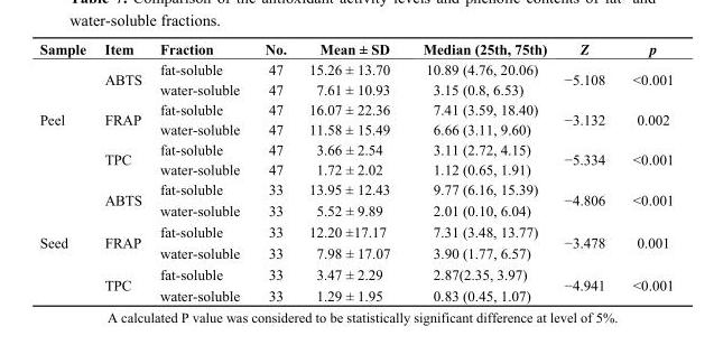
<table><thead><tr><td>Sample</td><td>Item</td><td>Fraction</td><td>No.</td><td>Mean ± SD</td><td>Median (25th, 75th)</td><td>Z</td><td>p</td></tr></thead><tbody><tr><td rowspan="6">Peel</td><td rowspan="2">ABTS</td><td>fat-soluble</td><td>47</td><td>15.26 ± 13.70</td><td>10.89 (4.76, 20.06)</td><td rowspan="2">−5.108</td><td rowspan="2">&lt;0.001</td></tr><tr><td>water-soluble</td><td>47</td><td>7.61 ± 10.93</td><td>3.15 (0.8, 6.53)</td></tr><tr><td rowspan="2">FRAP</td><td>fat-soluble</td><td>47</td><td>16.07 ± 22.36</td><td>7.41 (3.59, 18.40)</td><td rowspan="2">−3.132</td><td rowspan="2">0.002</td></tr><tr><td>water-soluble</td><td>47</td><td>11.58 ± 15.49</td><td>6.66 (3.11, 9.60)</td></tr><tr><td rowspan="2">TPC</td><td>fat-soluble</td><td>47</td><td>3.66 ± 2.54</td><td>3.11 (2.72, 4.15)</td><td rowspan="2">−5.334</td><td rowspan="2">&lt;0.001</td></tr><tr><td>water-soluble</td><td>47</td><td>1.72 ± 2.02</td><td>1.12 (0.65, 1.91)</td></tr><tr><td rowspan="6">Seed</td><td rowspan="2">ABTS</td><td>fat-soluble</td><td>33</td><td>13.95 ± 12.43</td><td>9.77 (6.16, 15.39)</td><td rowspan="2">−4.806</td><td rowspan="2">&lt;0.001</td></tr><tr><td>water-soluble</td><td>33</td><td>5.52 ± 9.89</td><td>2.01 (0.10, 6.04)</td></tr><tr><td rowspan="2">FRAP</td><td>fat-soluble</td><td>33</td><td>12.20 ±17.17</td><td>7.31 (3.48, 13.77)</td><td rowspan="2">−3.478</td><td rowspan="2">0.001</td></tr><tr><td>water-soluble</td><td>33</td><td>7.98 ± 17.07</td><td>3.90 (1.77, 6.57)</td></tr><tr><td rowspan="2">TPC</td><td>fat-soluble</td><td>33</td><td>3.47 ± 2.29</td><td>2.87(2.35, 3.97)</td><td rowspan="2">−4.941</td><td rowspan="2">&lt;0.001</td></tr><tr><td>water-soluble</td><td>33</td><td>1.29 ± 1.95</td><td>0.83 (0.45, 1.07)</td></tr></tbody></table>